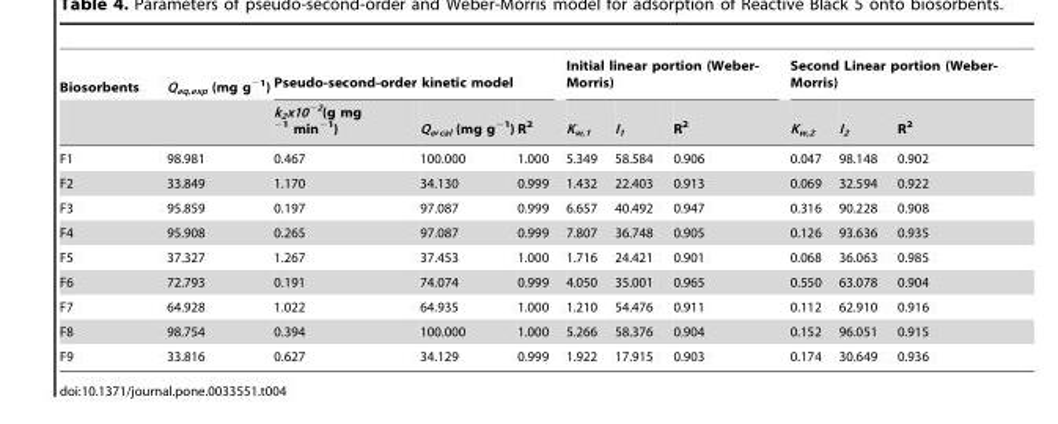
<table><thead><tr><td rowspan="2">Biosorbents</td><td rowspan="2">Q<sub>eq,exp</sub> (mg g<sup>−1</sup>)</td><td colspan="3">Pseudo-second-order kinetic model</td><td colspan="3">Initial linear portion (Weber- Morris)</td><td colspan="3">Second Linear portion (Weber- Morris)</td></tr><tr><td>k<sub>2</sub>x10<sup>−2</sup>(g mg <sup>−1</sup> min<sup>−1</sup>)</td><td>Q<sub>e</sub>,<sub>cal</sub> (mg g<sup>−1</sup>)</td><td>R<sup>2</sup></td><td>K<sub>w,1</sub></td><td>I<sub>1</sub></td><td>R<sup>2</sup></td><td>K<sub>w,2</sub></td><td>I<sub>2</sub></td><td>R<sup>2</sup></td></tr></thead><tbody><tr><td>F1</td><td>98.981</td><td>0.467</td><td>100.000</td><td>1.000</td><td>5.349</td><td>58.584</td><td>0.906</td><td>0.047</td><td>98.148</td><td>0.902</td></tr><tr><td>F2</td><td>33.849</td><td>1.170</td><td>34.130</td><td>0.999</td><td>1.432</td><td>22.403</td><td>0.913</td><td>0.069</td><td>32.594</td><td>0.922</td></tr><tr><td>F3</td><td>95.859</td><td>0.197</td><td>97.087</td><td>0.999</td><td>6.657</td><td>40.492</td><td>0.947</td><td>0.316</td><td>90.228</td><td>0.908</td></tr><tr><td>F4</td><td>95.908</td><td>0.265</td><td>97.087</td><td>0.999</td><td>7.807</td><td>36.748</td><td>0.905</td><td>0.126</td><td>93.636</td><td>0.935</td></tr><tr><td>F5</td><td>37.327</td><td>1.267</td><td>37.453</td><td>1.000</td><td>1.716</td><td>24.421</td><td>0.901</td><td>0.068</td><td>36.063</td><td>0.985</td></tr><tr><td>F6</td><td>72.793</td><td>0.191</td><td>74.074</td><td>0.999</td><td>4.050</td><td>35.001</td><td>0.965</td><td>0.550</td><td>63.078</td><td>0.904</td></tr><tr><td>F7</td><td>64.928</td><td>1.022</td><td>64.935</td><td>1.000</td><td>1.210</td><td>54.476</td><td>0.911</td><td>0.112</td><td>62.910</td><td>0.916</td></tr><tr><td>F8</td><td>98.754</td><td>0.394</td><td>100.000</td><td>1.000</td><td>5.266</td><td>58.376</td><td>0.904</td><td>0.152</td><td>96.051</td><td>0.915</td></tr><tr><td>F9</td><td>33.816</td><td>0.627</td><td>34.129</td><td>0.999</td><td>1.922</td><td>17.915</td><td>0.903</td><td>0.174</td><td>30.649</td><td>0.936</td></tr></tbody></table>